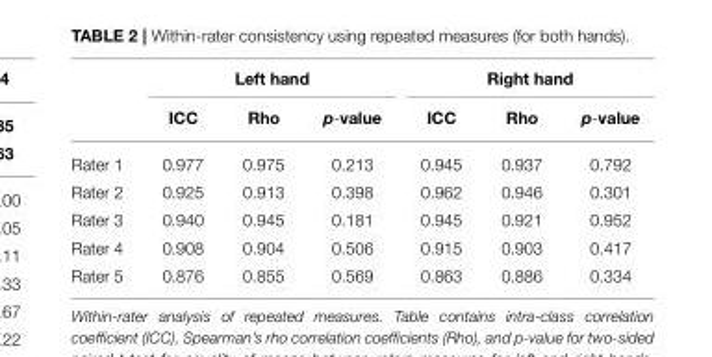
<table><thead><tr><td rowspan="2"></td><td colspan="3">Left hand</td><td colspan="3">Right hand</td></tr><tr><td>ICC</td><td>Rho</td><td>p-value</td><td>ICC</td><td>Rho</td><td>p-value</td></tr></thead><tbody><tr><td>Rater 1</td><td>0.977</td><td>0.975</td><td>0.213</td><td>0.945</td><td>0.937</td><td>0.792</td></tr><tr><td>Rater 2</td><td>0.925</td><td>0.913</td><td>0.398</td><td>0.962</td><td>0.946</td><td>0.301</td></tr><tr><td>Rater 3</td><td>0.940</td><td>0.945</td><td>0.181</td><td>0.945</td><td>0.921</td><td>0.952</td></tr><tr><td>Rater 4</td><td>0.908</td><td>0.904</td><td>0.506</td><td>0.915</td><td>0.903</td><td>0.417</td></tr><tr><td>Rater 5</td><td>0.876</td><td>0.855</td><td>0.569</td><td>0.863</td><td>0.886</td><td>0.334</td></tr></tbody></table>